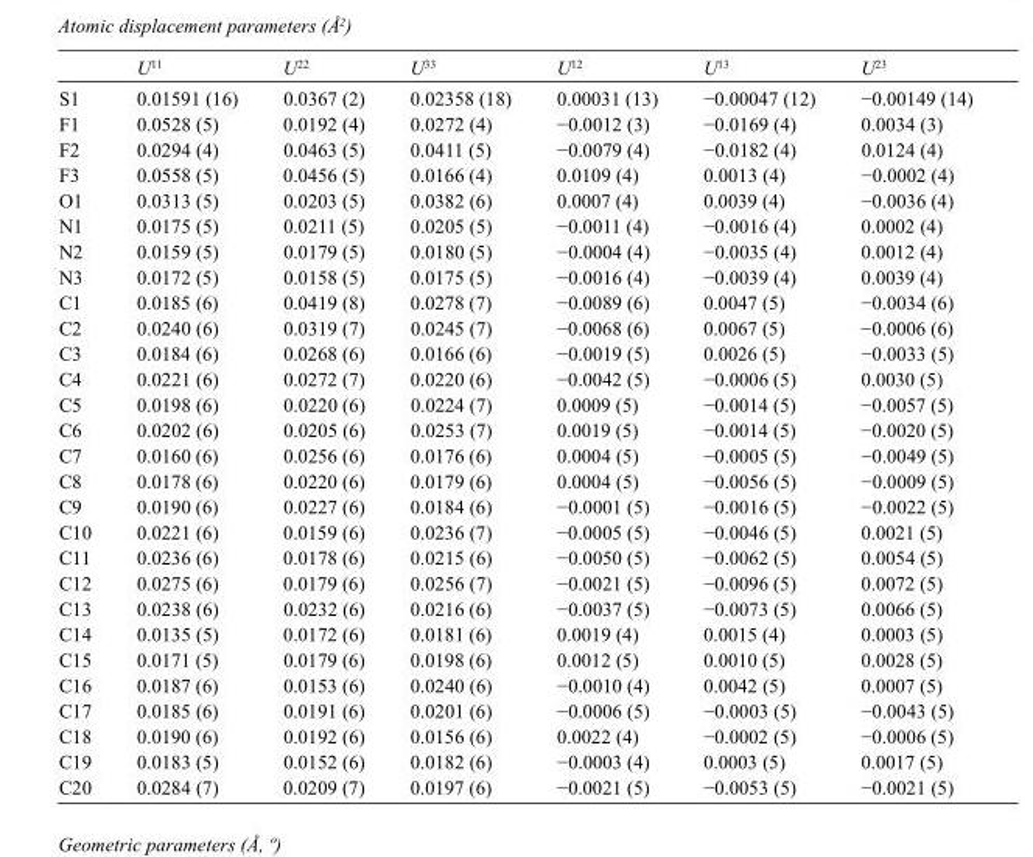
<table><thead><tr><td></td><td>U<sup>11</sup></td><td>U<sup>22</sup></td><td>U<sup>33</sup></td><td>U<sup>12</sup></td><td>U<sup>13</sup></td><td>U<sup>23</sup></td></tr></thead><tbody><tr><td>S1</td><td>0.01591 (16)</td><td>0.0367 (2)</td><td>0.02358 (18)</td><td>0.00031 (13)</td><td>−0.00047 (12)</td><td>−0.00149 (14)</td></tr><tr><td>F1</td><td>0.0528 (5)</td><td>0.0192 (4)</td><td>0.0272 (4)</td><td>−0.0012 (3)</td><td>−0.0169 (4)</td><td>0.0034 (3)</td></tr><tr><td>F2</td><td>0.0294 (4)</td><td>0.0463 (5)</td><td>0.0411 (5)</td><td>−0.0079 (4)</td><td>−0.0182 (4)</td><td>0.0124 (4)</td></tr><tr><td>F3</td><td>0.0558 (5)</td><td>0.0456 (5)</td><td>0.0166 (4)</td><td>0.0109 (4)</td><td>0.0013 (4)</td><td>−0.0002 (4)</td></tr><tr><td>O1</td><td>0.0313 (5)</td><td>0.0203 (5)</td><td>0.0382 (6)</td><td>0.0007 (4)</td><td>0.0039 (4)</td><td>−0.0036 (4)</td></tr><tr><td>N1</td><td>0.0175 (5)</td><td>0.0211 (5)</td><td>0.0205 (5)</td><td>−0.0011 (4)</td><td>−0.0016 (4)</td><td>0.0002 (4)</td></tr><tr><td>N2</td><td>0.0159 (5)</td><td>0.0179 (5)</td><td>0.0180 (5)</td><td>−0.0004 (4)</td><td>−0.0035 (4)</td><td>0.0012 (4)</td></tr><tr><td>N3</td><td>0.0172 (5)</td><td>0.0158 (5)</td><td>0.0175 (5)</td><td>−0.0016 (4)</td><td>−0.0039 (4)</td><td>0.0039 (4)</td></tr><tr><td>C1</td><td>0.0185 (6)</td><td>0.0419 (8)</td><td>0.0278 (7)</td><td>−0.0089 (6)</td><td>0.0047 (5)</td><td>−0.0034 (6)</td></tr><tr><td>C2</td><td>0.0240 (6)</td><td>0.0319 (7)</td><td>0.0245 (7)</td><td>−0.0068 (6)</td><td>0.0067 (5)</td><td>−0.0006 (6)</td></tr><tr><td>C3</td><td>0.0184 (6)</td><td>0.0268 (6)</td><td>0.0166 (6)</td><td>−0.0019 (5)</td><td>0.0026 (5)</td><td>−0.0033 (5)</td></tr><tr><td>C4</td><td>0.0221 (6)</td><td>0.0272 (7)</td><td>0.0220 (6)</td><td>−0.0042 (5)</td><td>−0.0006 (5)</td><td>0.0030 (5)</td></tr><tr><td>C5</td><td>0.0198 (6)</td><td>0.0220 (6)</td><td>0.0224 (7)</td><td>0.0009 (5)</td><td>−0.0014 (5)</td><td>−0.0057 (5)</td></tr><tr><td>C6</td><td>0.0202 (6)</td><td>0.0205 (6)</td><td>0.0253 (7)</td><td>0.0019 (5)</td><td>−0.0014 (5)</td><td>−0.0020 (5)</td></tr><tr><td>C7</td><td>0.0160 (6)</td><td>0.0256 (6)</td><td>0.0176 (6)</td><td>0.0004 (5)</td><td>−0.0005 (5)</td><td>−0.0049 (5)</td></tr><tr><td>C8</td><td>0.0178 (6)</td><td>0.0220 (6)</td><td>0.0179 (6)</td><td>0.0004 (5)</td><td>−0.0056 (5)</td><td>−0.0009 (5)</td></tr><tr><td>C9</td><td>0.0190 (6)</td><td>0.0227 (6)</td><td>0.0184 (6)</td><td>−0.0001 (5)</td><td>−0.0016 (5)</td><td>−0.0022 (5)</td></tr><tr><td>C10</td><td>0.0221 (6)</td><td>0.0159 (6)</td><td>0.0236 (7)</td><td>−0.0005 (5)</td><td>−0.0046 (5)</td><td>0.0021 (5)</td></tr><tr><td>C11</td><td>0.0236 (6)</td><td>0.0178 (6)</td><td>0.0215 (6)</td><td>−0.0050 (5)</td><td>−0.0062 (5)</td><td>0.0054 (5)</td></tr><tr><td>C12</td><td>0.0275 (6)</td><td>0.0179 (6)</td><td>0.0256 (7)</td><td>−0.0021 (5)</td><td>−0.0096 (5)</td><td>0.0072 (5)</td></tr><tr><td>C13</td><td>0.0238 (6)</td><td>0.0232 (6)</td><td>0.0216 (6)</td><td>−0.0037 (5)</td><td>−0.0073 (5)</td><td>0.0066 (5)</td></tr><tr><td>C14</td><td>0.0135 (5)</td><td>0.0172 (6)</td><td>0.0181 (6)</td><td>0.0019 (4)</td><td>0.0015 (4)</td><td>0.0003 (5)</td></tr><tr><td>C15</td><td>0.0171 (5)</td><td>0.0179 (6)</td><td>0.0198 (6)</td><td>0.0012 (5)</td><td>0.0010 (5)</td><td>0.0028 (5)</td></tr><tr><td>C16</td><td>0.0187 (6)</td><td>0.0153 (6)</td><td>0.0240 (6)</td><td>−0.0010 (4)</td><td>0.0042 (5)</td><td>0.0007 (5)</td></tr><tr><td>C17</td><td>0.0185 (6)</td><td>0.0191 (6)</td><td>0.0201 (6)</td><td>−0.0006 (5)</td><td>−0.0003 (5)</td><td>−0.0043 (5)</td></tr><tr><td>C18</td><td>0.0190 (6)</td><td>0.0192 (6)</td><td>0.0156 (6)</td><td>0.0022 (4)</td><td>−0.0002 (5)</td><td>−0.0006 (5)</td></tr><tr><td>C19</td><td>0.0183 (5)</td><td>0.0152 (6)</td><td>0.0182 (6)</td><td>−0.0003 (4)</td><td>0.0003 (5)</td><td>0.0017 (5)</td></tr><tr><td>C20</td><td>0.0284 (7)</td><td>0.0209 (7)</td><td>0.0197 (6)</td><td>−0.0021 (5)</td><td>−0.0053 (5)</td><td>−0.0021 (5)</td></tr></tbody></table>